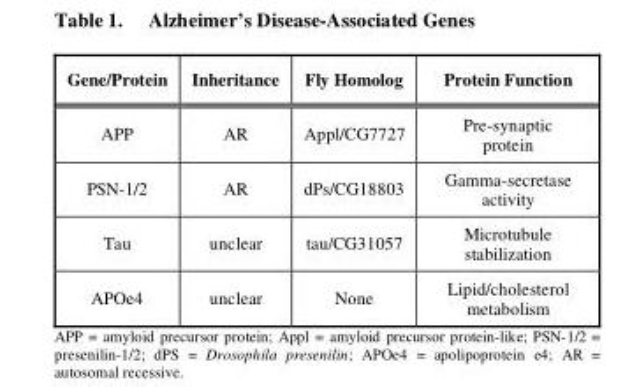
<table><thead><tr><td>Gene/Protein</td><td>Inheritance</td><td>Fly Homolog</td><td>Protein Function</td></tr></thead><tbody><tr><td>APP</td><td>AR</td><td>Appl/CG7727</td><td>Pre-synaptic protein</td></tr><tr><td>PSN-1/2</td><td>AR</td><td>dPs/CG18803</td><td>Gamma-secretase activity</td></tr><tr><td>Tau</td><td>unclear</td><td>tau/CG31057</td><td>Microtubule stabilization</td></tr><tr><td>APOe4</td><td>unclear</td><td>None</td><td>Lipid/cholesterol metabolism</td></tr></tbody></table>